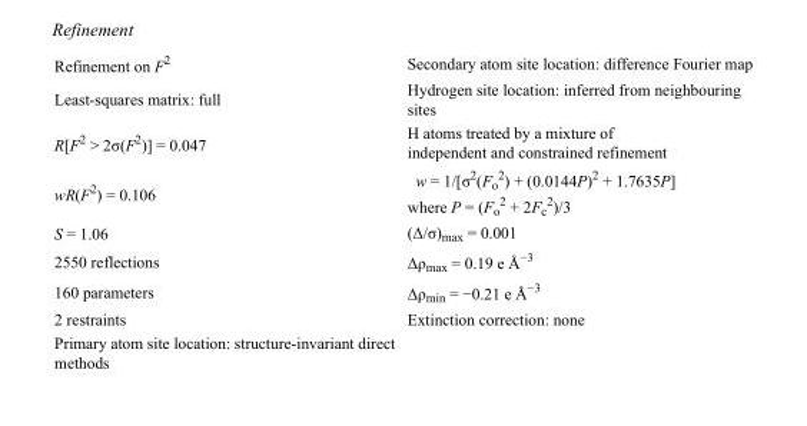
<table><tbody><tr><td>Refinement on F<sup>2</sup></td><td>Secondary atom site location: difference Fourier map</td></tr><tr><td>Least-squares matrix: full</td><td>Hydrogen site location: inferred from neighbouring sites</td></tr><tr><td>R[F<sup>2</sup> &gt; 2σ(F<sup>2</sup>)] = 0.047</td><td>H atoms treated by a mixture of independent and constrained refinement</td></tr><tr><td>wR(F<sup>2</sup>) = 0.106</td><td>w = 1/[σ<sup>2</sup>(F<sub>o</sub> <sup>2</sup>) + (0.0144P)<sup>2</sup> + 1.7635P] where P = (F<sub>o</sub> <sup>2</sup> + 2F<sub>c</sub> <sup>2</sup>)/3</td></tr><tr><td>S = 1.06</td><td>(Δ/σ)<sub>max</sub> = 0.001</td></tr><tr><td>2550 reflections</td><td>Δρ<sub>max</sub> = 0.19 e Å<sup>−3</sup></td></tr><tr><td>160 parameters</td><td>Δρ<sub>min</sub> = −0.21 e Å<sup>−3</sup></td></tr><tr><td>2 restraints</td><td>Extinction correction: none</td></tr><tr><td>Primary atom site location: structure-invariant direct methods</td><td></td></tr></tbody></table>